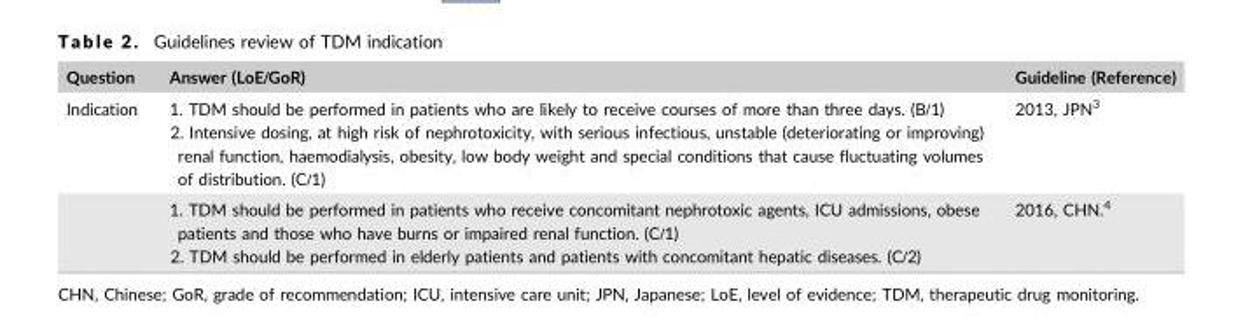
<table><thead><tr><td>Question</td><td>Answer (LoE/GoR)</td><td>Guideline (Reference)</td></tr></thead><tbody><tr><td rowspan="2">Indication</td><td>1. TDM should be performed in patients who are likely to receive courses of more than three days. (B/1) 2. Intensive dosing, at high risk of nephrotoxicity, with serious infectious, unstable (deteriorating or improving) renal function, haemodialysis, obesity, low body weight and special conditions that cause fluctuating volumes of distribution. (C/1)</td><td>2013, JPN<sup>3</sup></td></tr><tr><td>1. TDM should be performed in patients who receive concomitant nephrotoxic agents, ICU admissions, obese patients and those who have burns or impaired renal function. (C/1) 2. TDM should be performed in elderly patients and patients with concomitant hepatic diseases. (C/2)</td><td>2016, CHN.<sup>4</sup></td></tr></tbody></table>